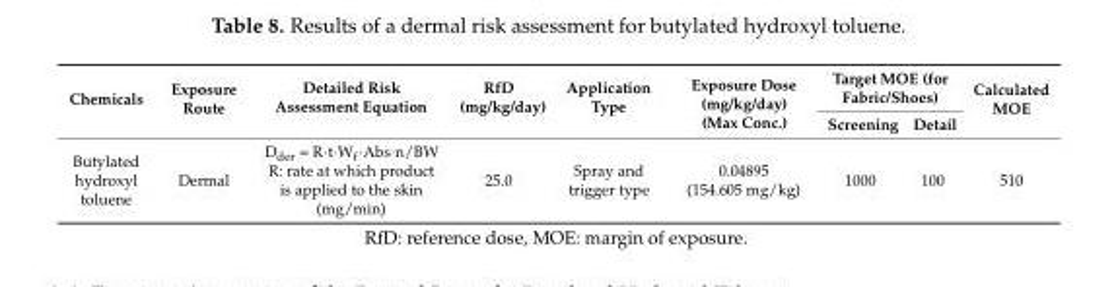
<table><thead><tr><td rowspan="2">Chemicals</td><td rowspan="2">Exposure Route</td><td rowspan="2">Detailed Risk Assessment Equation</td><td rowspan="2">RfD (mg/kg/day)</td><td rowspan="2">Application Type</td><td rowspan="2">Exposure Dose (mg/kg/day) (Max Conc.)</td><td colspan="2">Target MOE (for Fabric/Shoes)</td><td rowspan="2">Calculated MOE</td></tr><tr><td>Screening</td><td>Detail</td></tr></thead><tbody><tr><td>Butylated hydroxyl toluene</td><td>Dermal</td><td>D<sub>der</sub> = R·t·W<sub>f</sub>·Abs·n/BW R: rate at which product is applied to the skin (mg/min)</td><td>25.0</td><td>Spray and trigger type</td><td>0.04895 (154.605 mg/kg)</td><td>1000</td><td>100</td><td>510</td></tr></tbody></table>